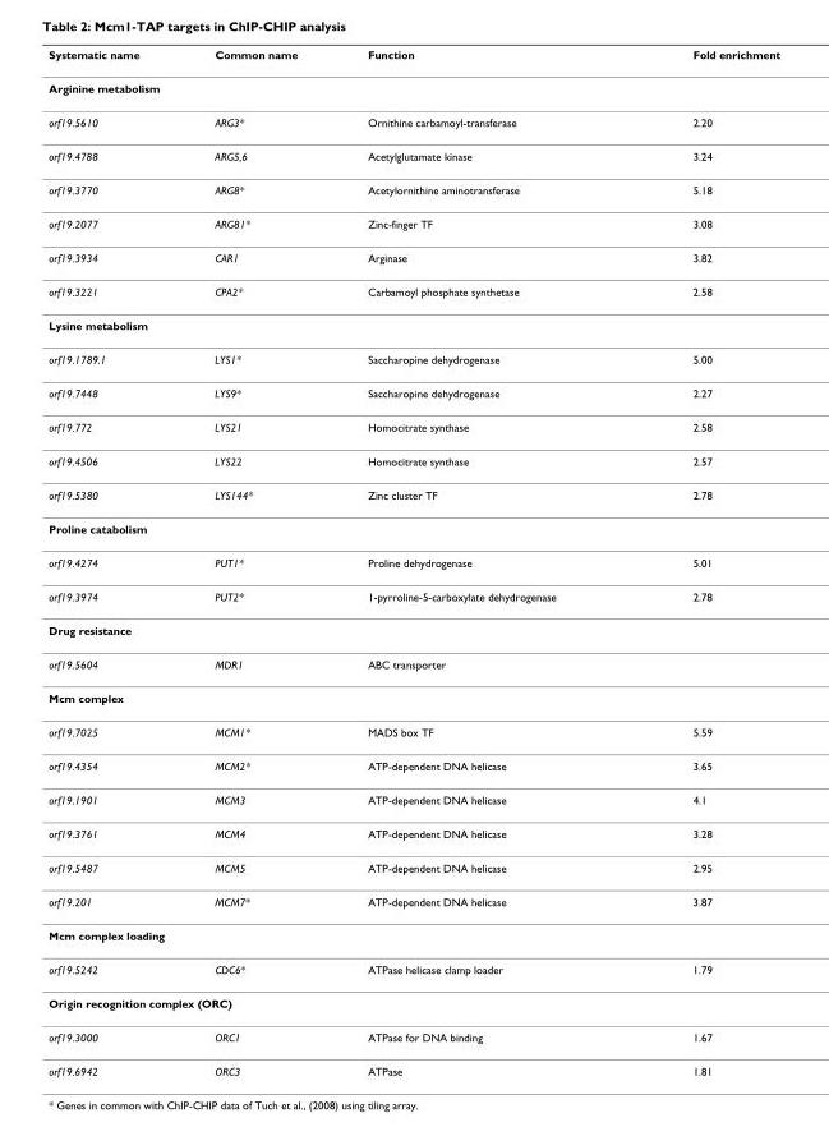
<table><thead><tr><td>Systematic name</td><td>Common name</td><td>Function</td><td>Fold enrichment</td></tr></thead><tbody><tr><td colspan="4">Arginine metabolism</td></tr><tr><td>orf19.5610</td><td>ARG3*</td><td>Ornithine carbamoyl-transferase</td><td>2.20</td></tr><tr><td>orf19.4788</td><td>ARG5,6</td><td>Acetylglutamate kinase</td><td>3.24</td></tr><tr><td>orf19.3770</td><td>ARG8*</td><td>Acetylornithine aminotransferase</td><td>5.18</td></tr><tr><td>orf19.2077</td><td>ARG81*</td><td>Zinc-finger TF</td><td>3.08</td></tr><tr><td>orf19.3934</td><td>CAR1</td><td>Arginase</td><td>3.82</td></tr><tr><td>orf19.3221</td><td>CPA2*</td><td>Carbamoyl phosphate synthetase</td><td>2.58</td></tr><tr><td colspan="4">Lysine metabolism</td></tr><tr><td>orf19.1789.1</td><td>LYS1*</td><td>Saccharopine dehydrogenase</td><td>5.00</td></tr><tr><td>orf19.7448</td><td>LYS9*</td><td>Saccharopine dehydrogenase</td><td>2.27</td></tr><tr><td>orf19.772</td><td>LYS21</td><td>Homocitrate synthase</td><td>2.58</td></tr><tr><td>orf19.4506</td><td>LYS22</td><td>Homocitrate synthase</td><td>2.57</td></tr><tr><td>orf19.5380</td><td>LYS144*</td><td>Zinc cluster TF</td><td>2.78</td></tr><tr><td colspan="4">Proline catabolism</td></tr><tr><td>orf19.4274</td><td>PUT1*</td><td>Proline dehydrogenase</td><td>5.01</td></tr><tr><td>orf19.3974</td><td>PUT2*</td><td>1-pyrroline-5-carboxylate dehydrogenase</td><td>2.78</td></tr><tr><td colspan="4">Drug resistance</td></tr><tr><td>orf19.5604</td><td>MDR1</td><td>ABC transporter</td><td></td></tr><tr><td colspan="4">Mcm complex</td></tr><tr><td>orf19.7025</td><td>MCM1*</td><td>MADS box TF</td><td>5.59</td></tr><tr><td>orf19.4354</td><td>MCM2*</td><td>ATP-dependent DNA helicase</td><td>3.65</td></tr><tr><td>orf19.1901</td><td>MCM3</td><td>ATP-dependent DNA helicase</td><td>4.1</td></tr><tr><td>orf19.3761</td><td>MCM4</td><td>ATP-dependent DNA helicase</td><td>3.28</td></tr><tr><td>orf19.5487</td><td>MCM5</td><td>ATP-dependent DNA helicase</td><td>2.95</td></tr><tr><td>orf19.201</td><td>MCM7*</td><td>ATP-dependent DNA helicase</td><td>3.87</td></tr><tr><td colspan="4">Mcm complex loading</td></tr><tr><td>orf19.5242</td><td>CDC6*</td><td>ATPase helicase clamp loader</td><td>1.79</td></tr><tr><td colspan="4">Origin recognition complex (ORC)</td></tr><tr><td>orf19.3000</td><td>ORC1</td><td>ATPase for DNA binding</td><td>1.67</td></tr><tr><td>orf19.6942</td><td>ORC3</td><td>ATPase</td><td>1.81</td></tr></tbody></table>